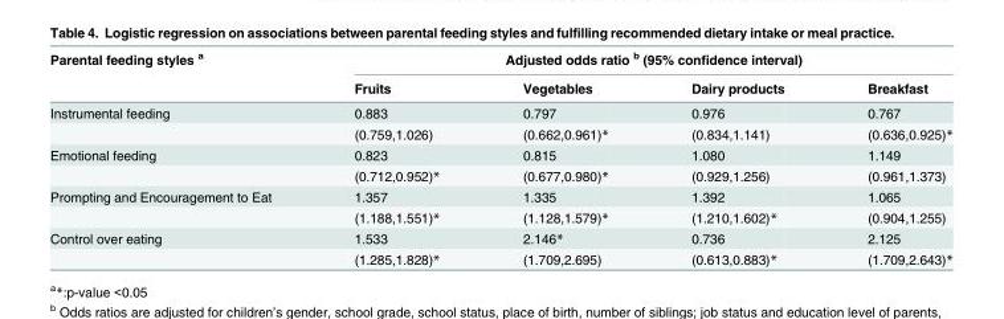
<table><thead><tr><td rowspan="2">Parental feeding styles <sup>a</sup></td><td colspan="4">Adjusted odds ratio <sup>b</sup> (95% confidence interval)</td></tr><tr><td>Fruits</td><td>Vegetables</td><td>Dairy products</td><td>Breakfast</td></tr></thead><tbody><tr><td rowspan="2">Instrumental feeding</td><td>0.883</td><td>0.797</td><td>0.976</td><td>0.767</td></tr><tr><td>(0.759,1.026)</td><td>(0.662,0.961)*</td><td>(0.834,1.141)</td><td>(0.636,0.925)*</td></tr><tr><td rowspan="2">Emotional feeding</td><td>0.823</td><td>0.815</td><td>1.080</td><td>1.149</td></tr><tr><td>(0.712,0.952)*</td><td>(0.677,0.980)*</td><td>(0.929,1.256)</td><td>(0.961,1.373)</td></tr><tr><td rowspan="2">Prompting and Encouragement to Eat</td><td>1.357</td><td>1.335</td><td>1.392</td><td>1.065</td></tr><tr><td>(1.188,1.551)*</td><td>(1.128,1.579)*</td><td>(1.210,1.602)*</td><td>(0.904,1.255)</td></tr><tr><td rowspan="2">Control over eating</td><td>1.533</td><td>2.146*</td><td>0.736</td><td>2.125</td></tr><tr><td>(1.285,1.828)*</td><td>(1.709,2.695)</td><td>(0.613,0.883)*</td><td>(1.709,2.643)*</td></tr></tbody></table>